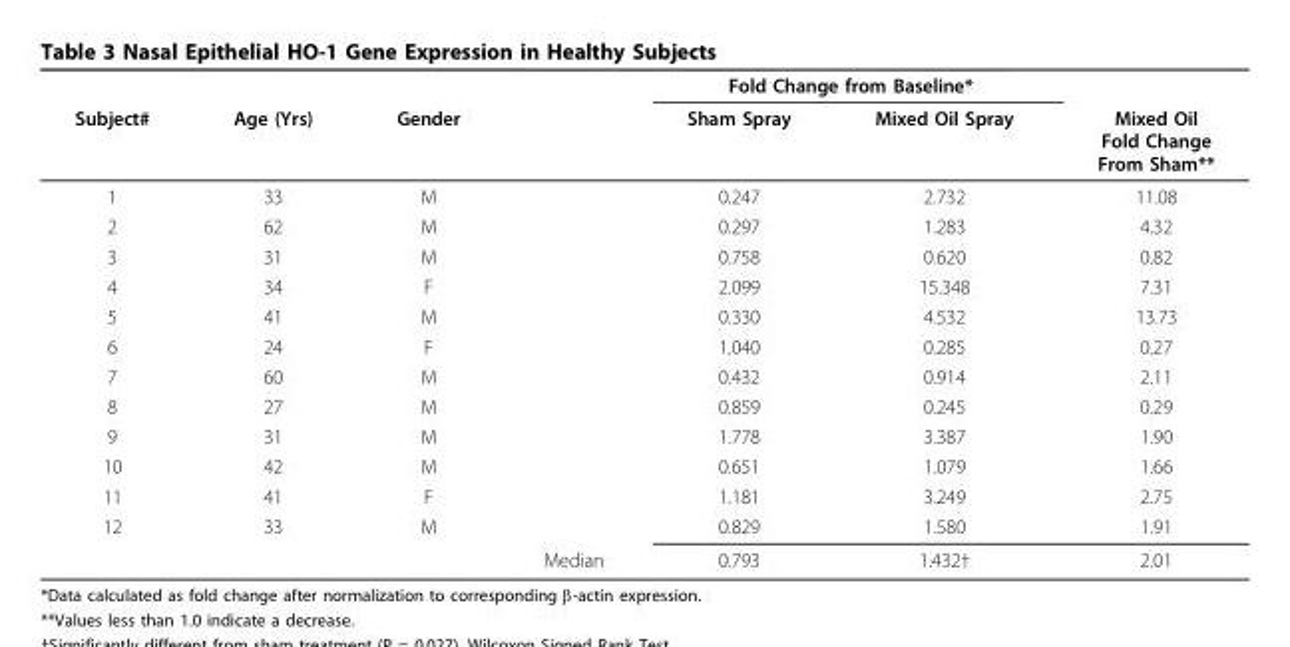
<table><thead><tr><td rowspan="2">Subject#</td><td rowspan="2">Age (Yrs)</td><td rowspan="2">Gender</td><td rowspan="2"></td><td colspan="2">Fold Change from Baseline*</td><td rowspan="2">Mixed Oil Fold Change From Sham**</td></tr><tr><td>Sham Spray</td><td>Mixed Oil Spray</td></tr></thead><tbody><tr><td>1</td><td>33</td><td>M</td><td></td><td>0.247</td><td>2.732</td><td>11.08</td></tr><tr><td>2</td><td>62</td><td>M</td><td></td><td>0.297</td><td>1.283</td><td>4.32</td></tr><tr><td>3</td><td>31</td><td>M</td><td></td><td>0.758</td><td>0.620</td><td>0.82</td></tr><tr><td>4</td><td>34</td><td>F</td><td></td><td>2.099</td><td>15.348</td><td>7.31</td></tr><tr><td>5</td><td>41</td><td>M</td><td></td><td>0.330</td><td>4.532</td><td>13.73</td></tr><tr><td>6</td><td>24</td><td>F</td><td></td><td>1.040</td><td>0.285</td><td>0.27</td></tr><tr><td>7</td><td>60</td><td>M</td><td></td><td>0.432</td><td>0.914</td><td>2.11</td></tr><tr><td>8</td><td>27</td><td>M</td><td></td><td>0.859</td><td>0.245</td><td>0.29</td></tr><tr><td>9</td><td>31</td><td>M</td><td></td><td>1.778</td><td>3.387</td><td>1.90</td></tr><tr><td>10</td><td>42</td><td>M</td><td></td><td>0.651</td><td>1.079</td><td>1.66</td></tr><tr><td>11</td><td>41</td><td>F</td><td></td><td>1.181</td><td>3.249</td><td>2.75</td></tr><tr><td rowspan="2">12</td><td>33</td><td>M</td><td></td><td>0.829</td><td>1.580</td><td>1.91</td></tr><tr><td></td><td></td><td>Median</td><td>0.793</td><td>1.432†</td><td>2.01</td></tr></tbody></table>